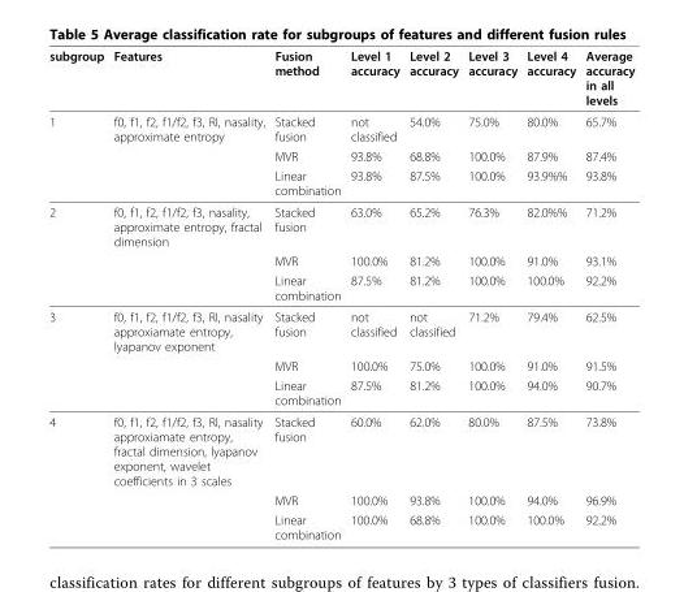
<table><thead><tr><td>subgroup</td><td>Features</td><td>Fusion method</td><td>Level 1 accuracy</td><td>Level 2 accuracy</td><td>Level 3 accuracy</td><td>Level 4 accuracy</td><td>Average accuracy in all levels</td></tr></thead><tbody><tr><td rowspan="3">1</td><td>f0, f1, f2, f1/f2, f3, RI, nasality, approximate entropy</td><td>Stacked fusion</td><td>not classified</td><td>54.0%</td><td>75.0%</td><td>80.0%</td><td>65.7%</td></tr><tr><td></td><td>MVR</td><td>93.8%</td><td>68.8%</td><td>100.0%</td><td>87.9%</td><td>87.4%</td></tr><tr><td></td><td>Linear combination</td><td>93.8%</td><td>87.5%</td><td>100.0%</td><td>93.9%%</td><td>93.8%</td></tr><tr><td rowspan="3">2</td><td>f0, f1, f2, f1/f2, f3, nasality, approximate entropy, fractal dimension</td><td>Stacked fusion</td><td>63.0%</td><td>65.2%</td><td>76.3%</td><td>82.0%%</td><td>71.2%</td></tr><tr><td></td><td>MVR</td><td>100.0%</td><td>81.2%</td><td>100.0%</td><td>91.0%</td><td>93.1%</td></tr><tr><td></td><td>Linear combination</td><td>87.5%</td><td>81.2%</td><td>100.0%</td><td>100.0%</td><td>92.2%</td></tr><tr><td rowspan="3">3</td><td>f0, f1, f2, f1/f2, f3, RI, nasality approxiamate entropy, lyapanov exponent</td><td>Stacked fusion</td><td>not classified</td><td>not classified</td><td>71.2%</td><td>79.4%</td><td>62.5%</td></tr><tr><td></td><td>MVR</td><td>100.0%</td><td>75.0%</td><td>100.0%</td><td>91.0%</td><td>91.5%</td></tr><tr><td></td><td>Linear combination</td><td>87.5%</td><td>81.2%</td><td>100.0%</td><td>94.0%</td><td>90.7%</td></tr><tr><td rowspan="3">4</td><td>f0, f1, f2, f1/f2, f3, RI, nasality approxiamate entropy, fractal dimension, lyapanov exponent, wavelet coefficients in 3 scales</td><td>Stacked fusion</td><td>60.0%</td><td>62.0%</td><td>80.0%</td><td>87.5%</td><td>73.8%</td></tr><tr><td></td><td>MVR</td><td>100.0%</td><td>93.8%</td><td>100.0%</td><td>94.0%</td><td>96.9%</td></tr><tr><td></td><td>Linear combination</td><td>100.0%</td><td>68.8%</td><td>100.0%</td><td>100.0%</td><td>92.2%</td></tr></tbody></table>